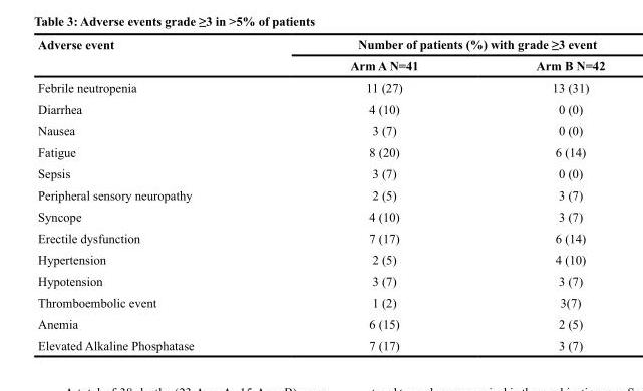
<table><thead><tr><td rowspan="2">Adverse event</td><td colspan="2">Number of patients (%) with grade ≥3 event</td></tr><tr><td>Arm A N=41</td><td>Arm B N=42</td></tr></thead><tbody><tr><td>Febrile neutropenia</td><td>11 (27)</td><td>13 (31)</td></tr><tr><td>Diarrhea</td><td>4 (10)</td><td>0 (0)</td></tr><tr><td>Nausea</td><td>3 (7)</td><td>0 (0)</td></tr><tr><td>Fatigue</td><td>8 (20)</td><td>6 (14)</td></tr><tr><td>Sepsis</td><td>3 (7)</td><td>0 (0)</td></tr><tr><td>Peripheral sensory neuropathy</td><td>2 (5)</td><td>3 (7)</td></tr><tr><td>Syncope</td><td>4 (10)</td><td>3 (7)</td></tr><tr><td>Erectile dysfunction</td><td>7 (17)</td><td>6 (14)</td></tr><tr><td>Hypertension</td><td>2 (5)</td><td>4 (10)</td></tr><tr><td>Hypotension</td><td>3 (7)</td><td>3 (7)</td></tr><tr><td>Thromboembolic event</td><td>1 (2)</td><td>3(7)</td></tr><tr><td>Anemia</td><td>6 (15)</td><td>2 (5)</td></tr><tr><td>Elevated Alkaline Phosphatase</td><td>7 (17)</td><td>3 (7)</td></tr></tbody></table>